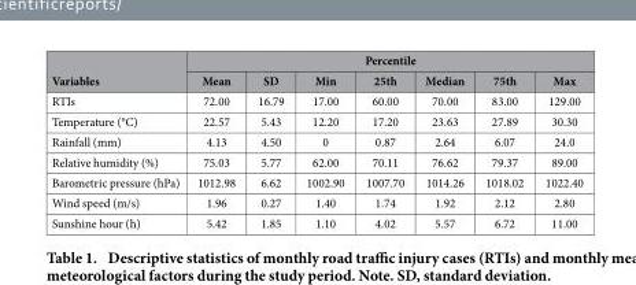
<table><thead><tr><td rowspan="2">Variables</td><td colspan="7">Percentile</td></tr><tr><td>Mean</td><td>SD</td><td>Min</td><td>25th</td><td>Median</td><td>75th</td><td>Max</td></tr></thead><tbody><tr><td>RTIs</td><td>72.00</td><td>16.79</td><td>17.00</td><td>60.00</td><td>70.00</td><td>83.00</td><td>129.00</td></tr><tr><td>Temperature (°C)</td><td>22.57</td><td>5.43</td><td>12.20</td><td>17.20</td><td>23.63</td><td>27.89</td><td>30.30</td></tr><tr><td>Rainfall (mm)</td><td>4.13</td><td>4.50</td><td>0</td><td>0.87</td><td>2.64</td><td>6.07</td><td>24.0</td></tr><tr><td>Relative humidity (%)</td><td>75.03</td><td>5.77</td><td>62.00</td><td>70.11</td><td>76.62</td><td>79.37</td><td>89.00</td></tr><tr><td>Barometric pressure (hPa)</td><td>1012.98</td><td>6.62</td><td>1002.90</td><td>1007.70</td><td>1014.26</td><td>1018.02</td><td>1022.40</td></tr><tr><td>Wind speed (m/s)</td><td>1.96</td><td>0.27</td><td>1.40</td><td>1.74</td><td>1.92</td><td>2.12</td><td>2.80</td></tr><tr><td>Sunshine hour (h)</td><td>5.42</td><td>1.85</td><td>1.10</td><td>4.02</td><td>5.57</td><td>6.72</td><td>11.00</td></tr></tbody></table>